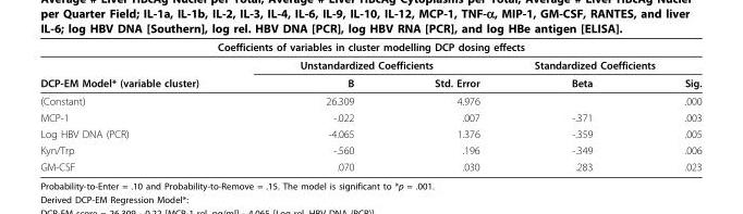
<table><thead><tr><td colspan="5">Coefficients of variables in cluster modelling DCP dosing effects</td></tr><tr><td rowspan="2">DCP-EM Model* (variable cluster)</td><td colspan="2">Unstandardized Coefficients</td><td colspan="2">Standardized Coefficients</td></tr><tr><td>B</td><td>Std. Error</td><td>Beta</td><td>Sig.</td></tr></thead><tbody><tr><td>(Constant)</td><td>26.309</td><td>4.976</td><td></td><td>.000</td></tr><tr><td>MCP-1</td><td>-.022</td><td>.007</td><td>-.371</td><td>.003</td></tr><tr><td>Log HBV DNA (PCR)</td><td>-4.065</td><td>1.376</td><td>-.359</td><td>.005</td></tr><tr><td>Kyn/Trp</td><td>-.560</td><td>.196</td><td>-.349</td><td>.006</td></tr><tr><td>GM-CSF</td><td>.070</td><td>.030</td><td>.283</td><td>.023</td></tr></tbody></table>